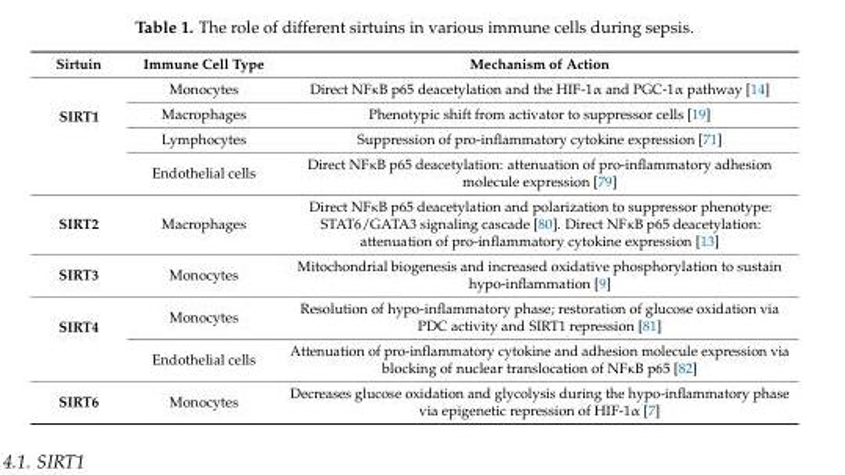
<table><thead><tr><td>Sirtuin</td><td>Immune Cell Type</td><td>Mechanism of Action</td></tr></thead><tbody><tr><td rowspan="4">SIRT1</td><td>Monocytes</td><td>Direct NFκB p65 deacetylation and the HIF-1α and PGC-1α pathway [14]</td></tr><tr><td>Macrophages</td><td>Phenotypic shift from activator to suppressor cells [19]</td></tr><tr><td>Lymphocytes</td><td>Suppression of pro-inflammatory cytokine expression [71]</td></tr><tr><td>Endothelial cells</td><td>Direct NFκB p65 deacetylation: attenuation of pro-inflammatory adhesion molecule expression [79]</td></tr><tr><td>SIRT2</td><td>Macrophages</td><td>Direct NFκB p65 deacetylation and polarization to suppressor phenotype: STAT6/GATA3 signaling cascade [80]. Direct NFκB p65 deacetylation: attenuation of pro-inflammatory cytokine expression [13]</td></tr><tr><td>SIRT3</td><td>Monocytes</td><td>Mitochondrial biogenesis and increased oxidative phosphorylation to sustain hypo-inflammation [9]</td></tr><tr><td rowspan="2">SIRT4</td><td>Monocytes</td><td>Resolution of hypo-inflammatory phase; restoration of glucose oxidation via PDC activity and SIRT1 repression [81]</td></tr><tr><td>Endothelial cells</td><td>Attenuation of pro-inflammatory cytokine and adhesion molecule expression via blocking of nuclear translocation of NFκB p65 [82]</td></tr><tr><td>SIRT6</td><td>Monocytes</td><td>Decreases glucose oxidation and glycolysis during the hypo-inflammatory phase via epigenetic repression of HIF-1α [7]</td></tr></tbody></table>